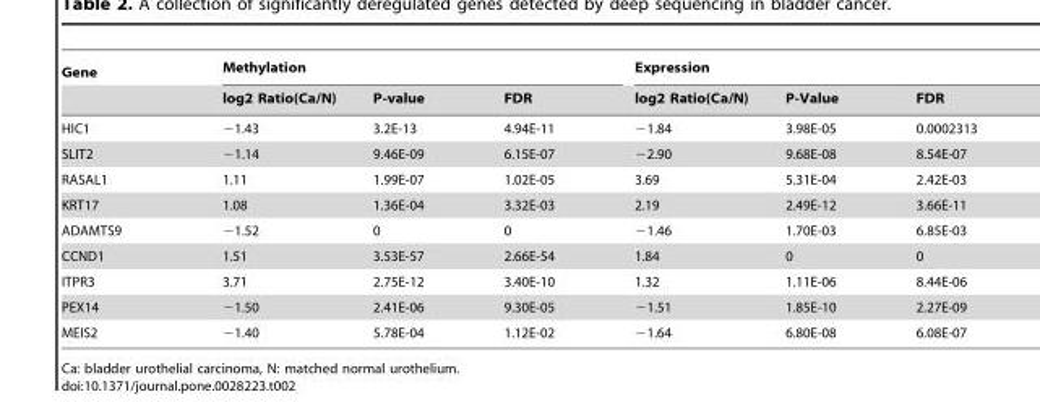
<table><thead><tr><td rowspan="2">Gene</td><td colspan="3">Methylation</td><td colspan="3">Expression</td></tr><tr><td>log2 Ratio(Ca/N)</td><td>P-value</td><td>FDR</td><td>log2 Ratio(Ca/N)</td><td>P-Value</td><td>FDR</td></tr></thead><tbody><tr><td>HIC1</td><td>−1.43</td><td>3.2E-13</td><td>4.94E-11</td><td>−1.84</td><td>3.98E-05</td><td>0.0002313</td></tr><tr><td>SLIT2</td><td>−1.14</td><td>9.46E-09</td><td>6.15E-07</td><td>−2.90</td><td>9.68E-08</td><td>8.54E-07</td></tr><tr><td>RASAL1</td><td>1.11</td><td>1.99E-07</td><td>1.02E-05</td><td>3.69</td><td>5.31E-04</td><td>2.42E-03</td></tr><tr><td>KRT17</td><td>1.08</td><td>1.36E-04</td><td>3.32E-03</td><td>2.19</td><td>2.49E-12</td><td>3.66E-11</td></tr><tr><td>ADAMTS9</td><td>−1.52</td><td>0</td><td>0</td><td>−1.46</td><td>1.70E-03</td><td>6.85E-03</td></tr><tr><td>CCND1</td><td>1.51</td><td>3.53E-57</td><td>2.66E-54</td><td>1.84</td><td>0</td><td>0</td></tr><tr><td>ITPR3</td><td>3.71</td><td>2.75E-12</td><td>3.40E-10</td><td>1.32</td><td>1.11E-06</td><td>8.44E-06</td></tr><tr><td>PEX14</td><td>−1.50</td><td>2.41E-06</td><td>9.30E-05</td><td>−1.51</td><td>1.85E-10</td><td>2.27E-09</td></tr><tr><td>MEIS2</td><td>−1.40</td><td>5.78E-04</td><td>1.12E-02</td><td>−1.64</td><td>6.80E-08</td><td>6.08E-07</td></tr></tbody></table>